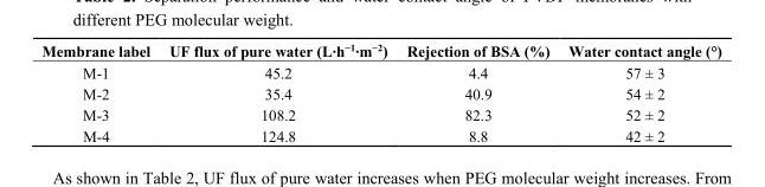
<table><thead><tr><td>Membrane label</td><td>UF flux of pure water (L∙h<sup>−1</sup>∙m<sup>−2</sup>)</td><td>Rejection of BSA (%)</td><td>Water contact angle (°)</td></tr></thead><tbody><tr><td>M-1</td><td>45.2</td><td>4.4</td><td>57 ± 3</td></tr><tr><td>M-2</td><td>35.4</td><td>40.9</td><td>54 ± 2</td></tr><tr><td>M-3</td><td>108.2</td><td>82.3</td><td>52 ± 2</td></tr><tr><td>M-4</td><td>124.8</td><td>8.8</td><td>42 ± 2</td></tr></tbody></table>